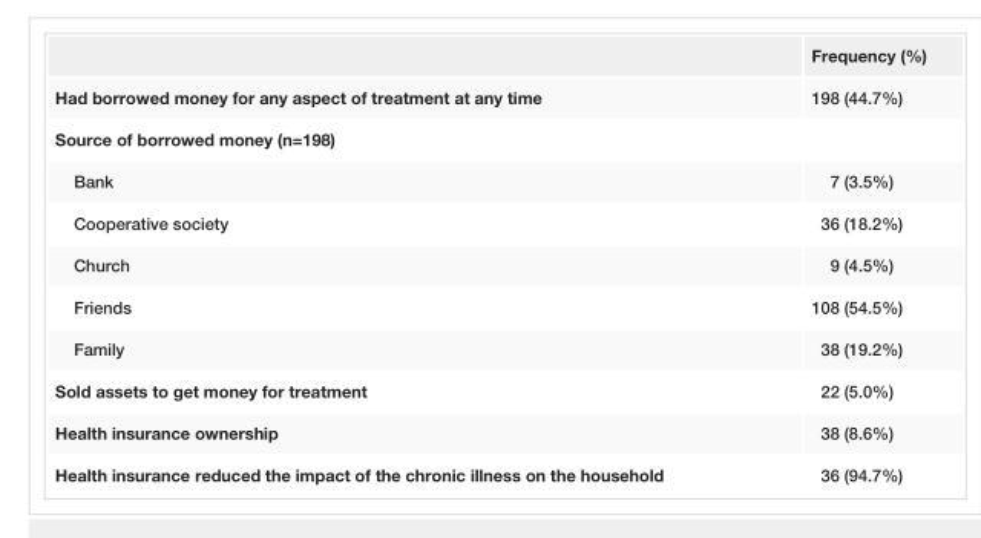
<table><thead><tr><td></td><td>Frequency (%)</td></tr></thead><tbody><tr><td>Had borrowed money for any aspect of treatment at any time</td><td>198 (44.7%)</td></tr><tr><td colspan="2">Source of borrowed money (n=198)</td></tr><tr><td>Bank</td><td>7 (3.5%)</td></tr><tr><td>Cooperative society</td><td>36 (18.2%)</td></tr><tr><td>Church</td><td>9 (4.5%)</td></tr><tr><td>Friends</td><td>108 (54.5%)</td></tr><tr><td>Family</td><td>38 (19.2%)</td></tr><tr><td>Sold assets to get money for treatment</td><td>22 (5.0%)</td></tr><tr><td>Health insurance ownership</td><td>38 (8.6%)</td></tr><tr><td>Health insurance reduced the impact of the chronic illness on the household</td><td>36 (94.7%)</td></tr></tbody></table>